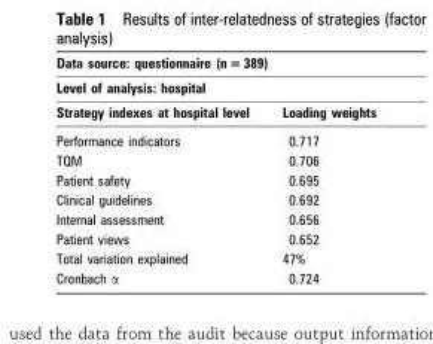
<table><thead><tr><td rowspan="2" colspan="2">Data source: questionnaire (n = 389) Level of analysis: hospital</td></tr><tr></tr><tr><td>Strategy indexes at hospital level</td><td>Loading weights</td></tr></thead><tbody><tr><td>Performance indicators</td><td>0.717</td></tr><tr><td>TQM</td><td>0.706</td></tr><tr><td>Patient safety</td><td>0.695</td></tr><tr><td>Clinical guidelines</td><td>0.692</td></tr><tr><td>Internal assessment</td><td>0.656</td></tr><tr><td>Patient views</td><td>0.652</td></tr><tr><td>Total variation explained</td><td>47%</td></tr><tr><td>Cronbach α</td><td>0.724</td></tr></tbody></table>